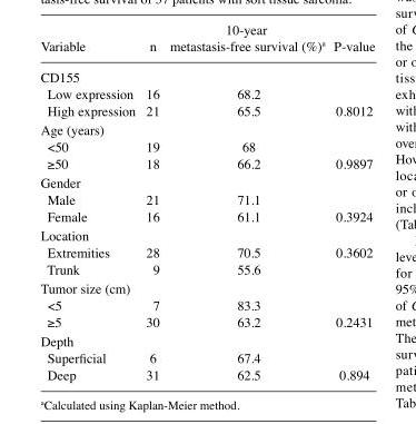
<table><thead><tr><td>Variable</td><td>n</td><td>metastasis-free survival (%)a</td><td>P-value</td></tr></thead><tbody><tr><td colspan="4">CD155</td></tr><tr><td>Low expression</td><td>16</td><td>68.2</td><td></td></tr><tr><td>High expression</td><td>21</td><td>65.5</td><td>0.8012</td></tr><tr><td colspan="4">Age (years)</td></tr><tr><td>&lt;50</td><td>19</td><td>68</td><td></td></tr><tr><td>≥50</td><td>18</td><td>66.2</td><td>0.9897</td></tr><tr><td colspan="4">Gender</td></tr><tr><td>Male</td><td>21</td><td>71.1</td><td></td></tr><tr><td>Female</td><td>16</td><td>61.1</td><td>0.3924</td></tr><tr><td colspan="4">Location</td></tr><tr><td>Extremities</td><td>28</td><td>70.5</td><td>0.3602</td></tr><tr><td>Trunk</td><td>9</td><td>55.6</td><td></td></tr><tr><td colspan="4">Tumor size (cm)</td></tr><tr><td>&lt;5</td><td>7</td><td>83.3</td><td></td></tr><tr><td>≥5</td><td>30</td><td>63.2</td><td>0.2431</td></tr><tr><td colspan="4">Depth</td></tr><tr><td>Superficial</td><td>6</td><td>67.4</td><td></td></tr><tr><td>Deep</td><td>31</td><td>62.5</td><td>0.894</td></tr></tbody></table>